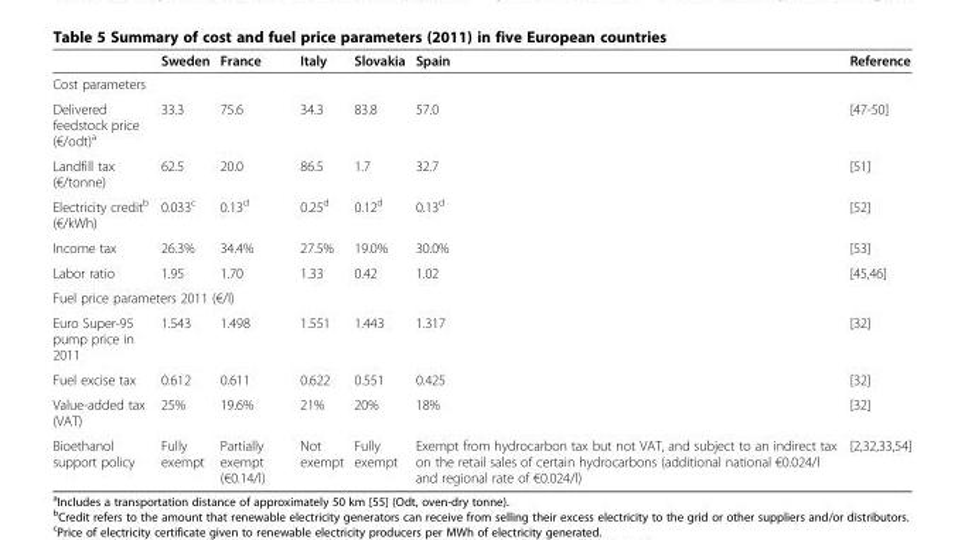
<table><thead><tr><td></td><td>Sweden</td><td>France</td><td>Italy</td><td>Slovakia</td><td>Spain</td><td>Reference</td></tr></thead><tbody><tr><td colspan="7">Cost parameters</td></tr><tr><td>Delivered feedstock price (€/odt)<sup>a</sup></td><td>33.3</td><td>75.6</td><td>34.3</td><td>83.8</td><td>57.0</td><td>[47-50]</td></tr><tr><td>Landfill tax (€/tonne)</td><td>62.5</td><td>20.0</td><td>86.5</td><td>1.7</td><td>32.7</td><td>[51]</td></tr><tr><td>Electricity credit<sup>b</sup> (€/kWh)</td><td>0.033<sup>c</sup></td><td>0.13<sup>d</sup></td><td>0.25<sup>d</sup></td><td>0.12<sup>d</sup></td><td>0.13<sup>d</sup></td><td>[52]</td></tr><tr><td>Income tax</td><td>26.3%</td><td>34.4%</td><td>27.5%</td><td>19.0%</td><td>30.0%</td><td>[53]</td></tr><tr><td>Labor ratio</td><td>1.95</td><td>1.70</td><td>1.33</td><td>0.42</td><td>1.02</td><td>[45,46]</td></tr><tr><td colspan="7">Fuel price parameters 2011 (€/l)</td></tr><tr><td>Euro Super-95 pump price in 2011</td><td>1.543</td><td>1.498</td><td>1.551</td><td>1.443</td><td>1.317</td><td>[32]</td></tr><tr><td>Fuel excise tax</td><td>0.612</td><td>0.611</td><td>0.622</td><td>0.551</td><td>0.425</td><td>[32]</td></tr><tr><td>Value-added tax (VAT)</td><td>25%</td><td>19.6%</td><td>21%</td><td>20%</td><td>18%</td><td>[32]</td></tr><tr><td>Bioethanol support policy</td><td>Fully exempt</td><td>Partially exempt (€0.14/l)</td><td>Not exempt</td><td>Fully exempt</td><td>Exempt from hydrocarbon tax but not VAT, and subject to an indirect tax on the retail sales of certain hydrocarbons (additional national €0.024/l and regional rate of €0.024/l)</td><td>[2,32,33,54]</td></tr></tbody></table>